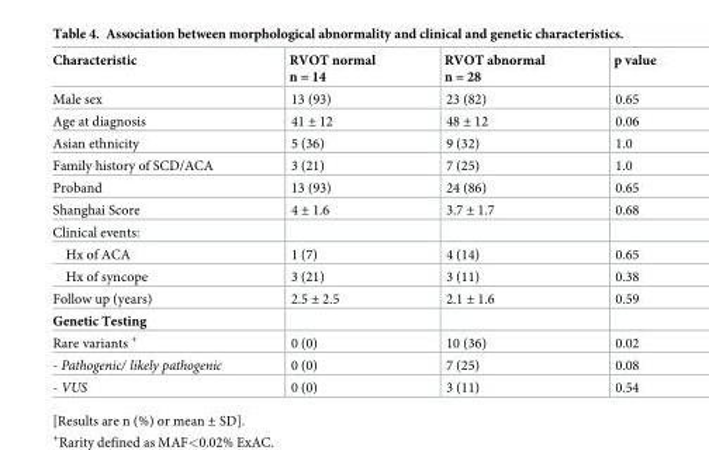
<table><thead><tr><td>Characteristic</td><td>RVOT normal n = 14</td><td>RVOT abnormal n = 28</td><td>p value</td></tr></thead><tbody><tr><td>Male sex</td><td>13 (93)</td><td>23 (82)</td><td>0.65</td></tr><tr><td>Age at diagnosis</td><td>41 ± 12</td><td>48 ± 12</td><td>0.06</td></tr><tr><td>Asian ethnicity</td><td>5 (36)</td><td>9 (32)</td><td>1.0</td></tr><tr><td>Family history of SCD/ACA</td><td>3 (21)</td><td>7 (25)</td><td>1.0</td></tr><tr><td>Proband</td><td>13 (93)</td><td>24 (86)</td><td>0.65</td></tr><tr><td>Shanghai Score</td><td>4 ± 1.6</td><td>3.7 ± 1.7</td><td>0.68</td></tr><tr><td colspan="4">Clinical events:</td></tr><tr><td>Hx of ACA</td><td>1 (7)</td><td>4 (14)</td><td>0.65</td></tr><tr><td>Hx of syncope</td><td>3 (21)</td><td>3 (11)</td><td>0.38</td></tr><tr><td>Follow up (years)</td><td>2.5 ± 2.5</td><td>2.1 ± 1.6</td><td>0.59</td></tr><tr><td colspan="4">Genetic Testing</td></tr><tr><td>Rare variants <sup>+</sup></td><td>0 (0)</td><td>10 (36)</td><td>0.02</td></tr><tr><td>- Pathogenic/ likely pathogenic</td><td>0 (0)</td><td>7 (25)</td><td>0.08</td></tr><tr><td>- VUS</td><td>0 (0)</td><td>3 (11)</td><td>0.54</td></tr></tbody></table>